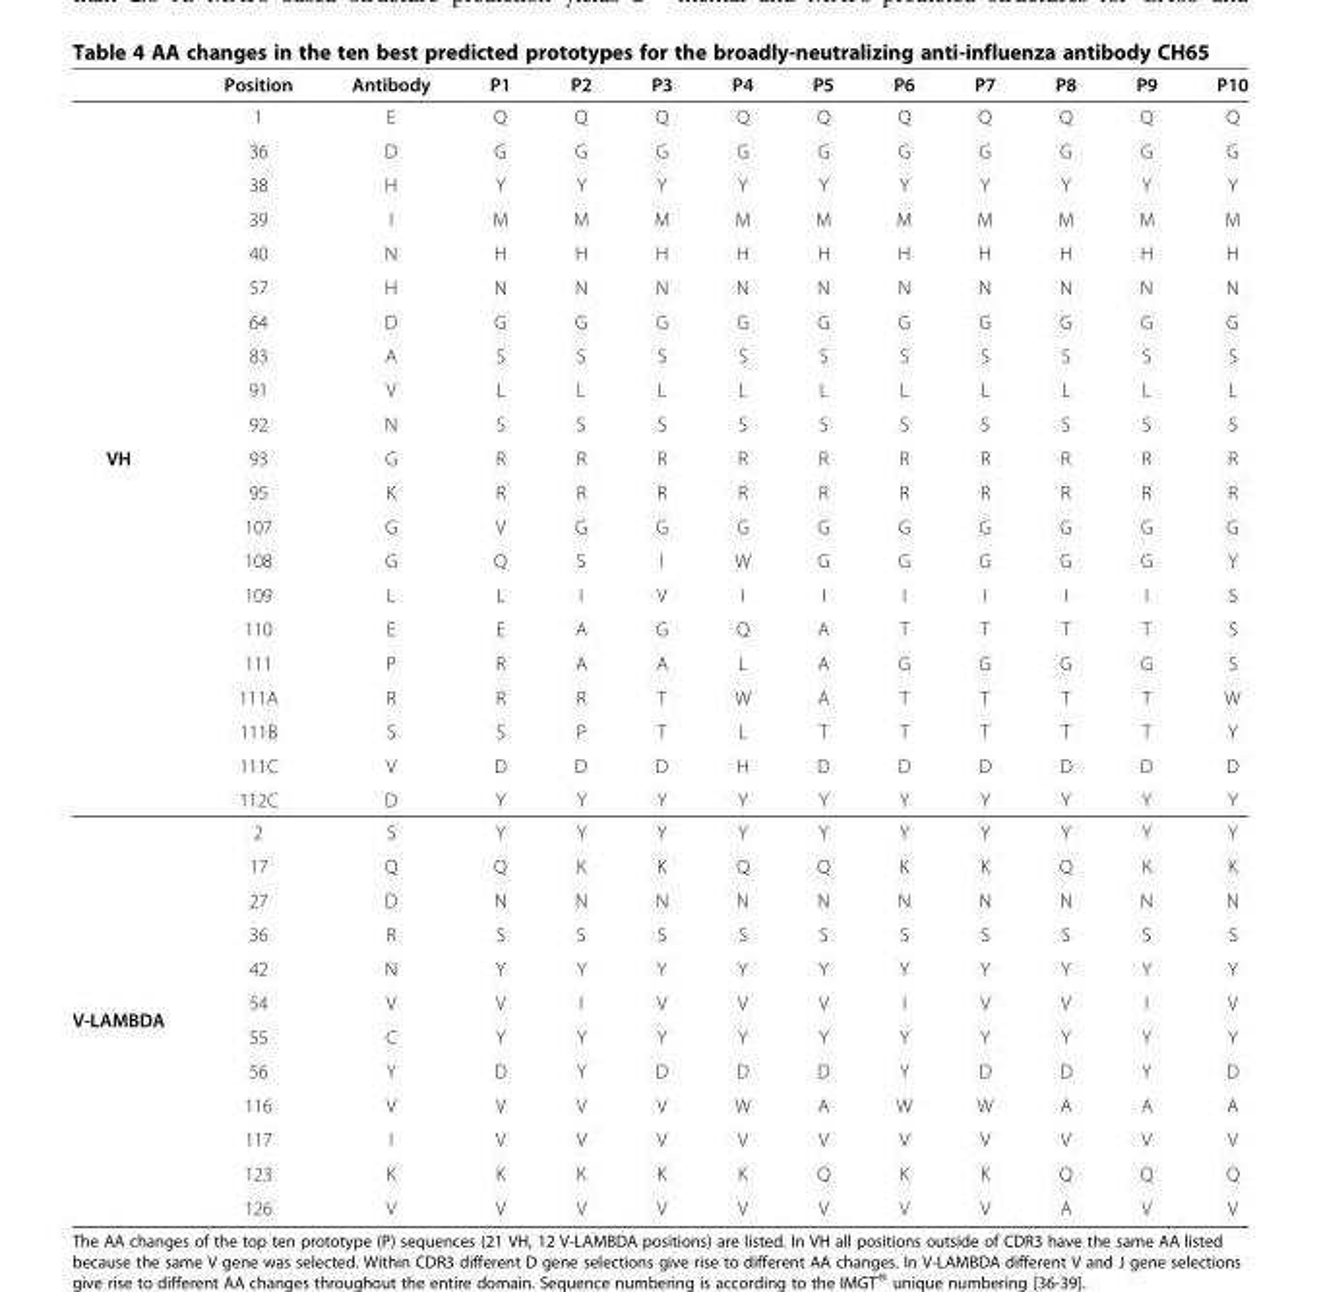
<table><thead><tr><td></td><td>Position</td><td>Antibody</td><td>P1</td><td>P2</td><td>P3</td><td>P4</td><td>P5</td><td>P6</td><td>P7</td><td>P8</td><td>P9</td><td>P10</td></tr></thead><tbody><tr><td rowspan="21">VH</td><td>1</td><td>E</td><td>Q</td><td>Q</td><td>Q</td><td>Q</td><td>Q</td><td>Q</td><td>Q</td><td>Q</td><td>Q</td><td>Q</td></tr><tr><td>36</td><td>D</td><td>G</td><td>G</td><td>G</td><td>G</td><td>G</td><td>G</td><td>G</td><td>G</td><td>G</td><td>G</td></tr><tr><td>38</td><td>H</td><td>Y</td><td>Y</td><td>Y</td><td>Y</td><td>Y</td><td>Y</td><td>Y</td><td>Y</td><td>Y</td><td>Y</td></tr><tr><td>39</td><td>I</td><td>M</td><td>M</td><td>M</td><td>M</td><td>M</td><td>M</td><td>M</td><td>M</td><td>M</td><td>M</td></tr><tr><td>40</td><td>N</td><td>H</td><td>H</td><td>H</td><td>H</td><td>H</td><td>H</td><td>H</td><td>H</td><td>H</td><td>H</td></tr><tr><td>57</td><td>H</td><td>N</td><td>N</td><td>N</td><td>N</td><td>N</td><td>N</td><td>N</td><td>N</td><td>N</td><td>N</td></tr><tr><td>64</td><td>D</td><td>G</td><td>G</td><td>G</td><td>G</td><td>G</td><td>G</td><td>G</td><td>G</td><td>G</td><td>G</td></tr><tr><td>83</td><td>A</td><td>S</td><td>S</td><td>S</td><td>S</td><td>S</td><td>S</td><td>S</td><td>S</td><td>S</td><td>S</td></tr><tr><td>91</td><td>V</td><td>L</td><td>L</td><td>L</td><td>L</td><td>L</td><td>L</td><td>L</td><td>L</td><td>L</td><td>L</td></tr><tr><td>92</td><td>N</td><td>S</td><td>S</td><td>S</td><td>S</td><td>S</td><td>S</td><td>S</td><td>S</td><td>S</td><td>S</td></tr><tr><td>93</td><td>G</td><td>R</td><td>R</td><td>R</td><td>R</td><td>R</td><td>R</td><td>R</td><td>R</td><td>R</td><td>R</td></tr><tr><td>95</td><td>K</td><td>R</td><td>R</td><td>R</td><td>R</td><td>R</td><td>R</td><td>R</td><td>R</td><td>R</td><td>R</td></tr><tr><td>107</td><td>G</td><td>V</td><td>G</td><td>G</td><td>G</td><td>G</td><td>G</td><td>G</td><td>G</td><td>G</td><td>G</td></tr><tr><td>108</td><td>G</td><td>Q</td><td>S</td><td>I</td><td>W</td><td>G</td><td>G</td><td>G</td><td>G</td><td>G</td><td>Y</td></tr><tr><td>109</td><td>L</td><td>L</td><td>I</td><td>V</td><td>I</td><td>I</td><td>I</td><td>I</td><td>I</td><td>I</td><td>S</td></tr><tr><td>110</td><td>E</td><td>E</td><td>A</td><td>G</td><td>Q</td><td>A</td><td>T</td><td>T</td><td>T</td><td>T</td><td>S</td></tr><tr><td>111</td><td>P</td><td>R</td><td>A</td><td>A</td><td>L</td><td>A</td><td>G</td><td>G</td><td>G</td><td>G</td><td>S</td></tr><tr><td>111A</td><td>R</td><td>R</td><td>R</td><td>T</td><td>W</td><td>A</td><td>T</td><td>T</td><td>T</td><td>T</td><td>W</td></tr><tr><td>111B</td><td>S</td><td>S</td><td>P</td><td>T</td><td>L</td><td>T</td><td>T</td><td>T</td><td>T</td><td>T</td><td>Y</td></tr><tr><td>111C</td><td>V</td><td>D</td><td>D</td><td>D</td><td>H</td><td>D</td><td>D</td><td>D</td><td>D</td><td>D</td><td>D</td></tr><tr><td>112C</td><td>D</td><td>Y</td><td>Y</td><td>Y</td><td>Y</td><td>Y</td><td>Y</td><td>Y</td><td>Y</td><td>Y</td><td>Y</td></tr><tr><td rowspan="12">V-LAMBDA</td><td>2</td><td>S</td><td>Y</td><td>Y</td><td>Y</td><td>Y</td><td>Y</td><td>Y</td><td>Y</td><td>Y</td><td>Y</td><td>Y</td></tr><tr><td>17</td><td>Q</td><td>Q</td><td>K</td><td>K</td><td>Q</td><td>Q</td><td>K</td><td>K</td><td>Q</td><td>K</td><td>K</td></tr><tr><td>27</td><td>D</td><td>N</td><td>N</td><td>N</td><td>N</td><td>N</td><td>N</td><td>N</td><td>N</td><td>N</td><td>N</td></tr><tr><td>36</td><td>R</td><td>S</td><td>S</td><td>S</td><td>S</td><td>S</td><td>S</td><td>S</td><td>S</td><td>S</td><td>S</td></tr><tr><td>42</td><td>N</td><td>Y</td><td>Y</td><td>Y</td><td>Y</td><td>Y</td><td>Y</td><td>Y</td><td>Y</td><td>Y</td><td>Y</td></tr><tr><td>54</td><td>V</td><td>V</td><td>I</td><td>V</td><td>V</td><td>V</td><td>I</td><td>V</td><td>V</td><td>I</td><td>V</td></tr><tr><td>55</td><td>C</td><td>Y</td><td>Y</td><td>Y</td><td>Y</td><td>Y</td><td>Y</td><td>Y</td><td>Y</td><td>Y</td><td>Y</td></tr><tr><td>56</td><td>Y</td><td>D</td><td>Y</td><td>D</td><td>D</td><td>D</td><td>Y</td><td>D</td><td>D</td><td>Y</td><td>D</td></tr><tr><td>116</td><td>V</td><td>V</td><td>V</td><td>V</td><td>W</td><td>A</td><td>W</td><td>W</td><td>A</td><td>A</td><td>A</td></tr><tr><td>117</td><td>I</td><td>V</td><td>V</td><td>V</td><td>V</td><td>V</td><td>V</td><td>V</td><td>V</td><td>V</td><td>V</td></tr><tr><td>123</td><td>K</td><td>K</td><td>K</td><td>K</td><td>K</td><td>Q</td><td>K</td><td>K</td><td>Q</td><td>Q</td><td>Q</td></tr><tr><td>126</td><td>V</td><td>V</td><td>V</td><td>V</td><td>V</td><td>V</td><td>V</td><td>V</td><td>A</td><td>V</td><td>V</td></tr></tbody></table>